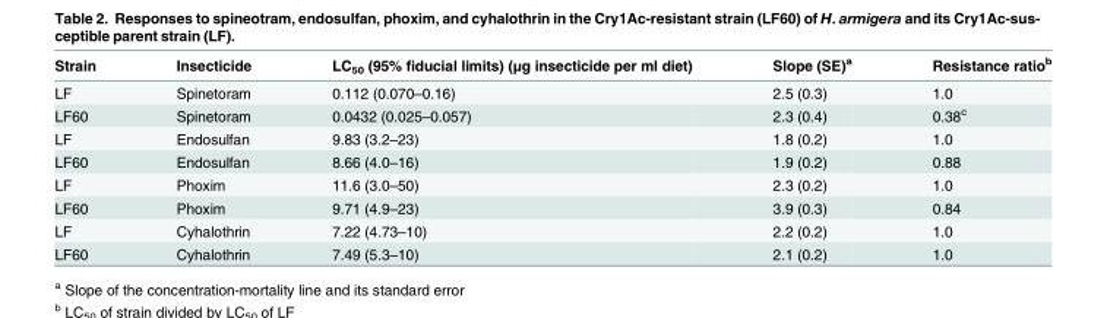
<table><thead><tr><td>Strain</td><td>Insecticide</td><td>LC<sub>50</sub> (95% fiducial limits) (μg insecticide per ml diet)</td><td>Slope (SE)<sup>a</sup></td><td>Resistance ratio<sup>b</sup></td></tr></thead><tbody><tr><td>LF</td><td>Spinetoram</td><td>0.112 (0.070–0.16)</td><td>2.5 (0.3)</td><td>1.0</td></tr><tr><td>LF60</td><td>Spinetoram</td><td>0.0432 (0.025–0.057)</td><td>2.3 (0.4)</td><td>0.38<sup>c</sup></td></tr><tr><td>LF</td><td>Endosulfan</td><td>9.83 (3.2–23)</td><td>1.8 (0.2)</td><td>1.0</td></tr><tr><td>LF60</td><td>Endosulfan</td><td>8.66 (4.0–16)</td><td>1.9 (0.2)</td><td>0.88</td></tr><tr><td>LF</td><td>Phoxim</td><td>11.6 (3.0–50)</td><td>2.3 (0.2)</td><td>1.0</td></tr><tr><td>LF60</td><td>Phoxim</td><td>9.71 (4.9–23)</td><td>3.9 (0.3)</td><td>0.84</td></tr><tr><td>LF</td><td>Cyhalothrin</td><td>7.22 (4.73–10)</td><td>2.2 (0.2)</td><td>1.0</td></tr><tr><td>LF60</td><td>Cyhalothrin</td><td>7.49 (5.3–10)</td><td>2.1 (0.2)</td><td>1.0</td></tr></tbody></table>